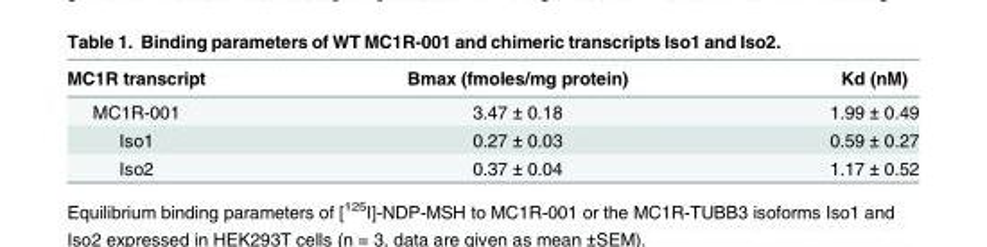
<table><thead><tr><td>MC1R transcript</td><td>Bmax (fmoles/mg protein)</td><td>Kd (nM)</td></tr></thead><tbody><tr><td>MC1R-001</td><td>3.47 ± 0.18</td><td>1.99 ± 0.49</td></tr><tr><td>Iso1</td><td>0.27 ± 0.03</td><td>0.59 ± 0.27</td></tr><tr><td>Iso2</td><td>0.37 ± 0.04</td><td>1.17 ± 0.52</td></tr></tbody></table>